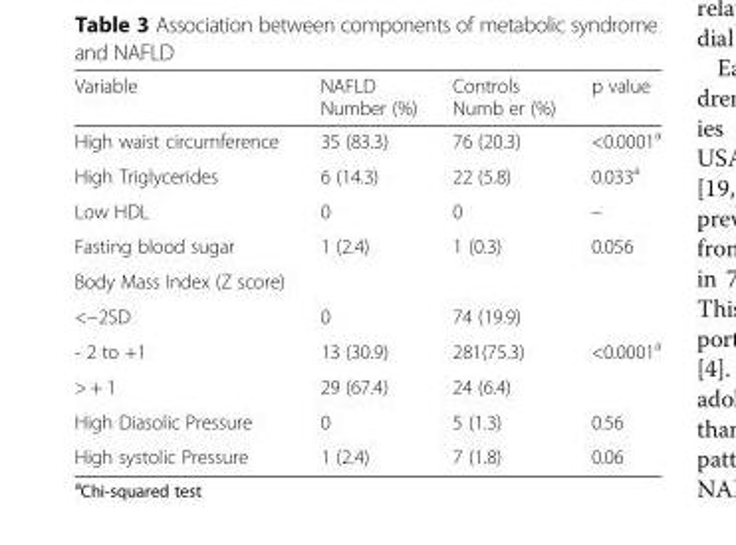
<table><thead><tr><td>Variable</td><td>NAFLD Number (%)</td><td>Controls Numb er (%)</td><td>p value</td></tr></thead><tbody><tr><td>High waist circumference</td><td>35 (83.3)</td><td>76 (20.3)</td><td>&lt;0.0001<sup>a</sup></td></tr><tr><td>High Triglycerides</td><td>6 (14.3)</td><td>22 (5.8)</td><td>0.033<sup>a</sup></td></tr><tr><td>Low HDL</td><td>0</td><td>0</td><td>–</td></tr><tr><td>Fasting blood sugar</td><td>1 (2.4)</td><td>1 (0.3)</td><td>0.056</td></tr><tr><td colspan="4">Body Mass Index (Z score)</td></tr><tr><td>&lt;−2SD</td><td>0</td><td>74 (19.9)</td><td></td></tr><tr><td>- 2 to +1</td><td>13 (30.9)</td><td>281(75.3)</td><td>&lt;0.0001<sup>a</sup></td></tr><tr><td>&gt; + 1</td><td>29 (67.4)</td><td>24 (6.4)</td><td></td></tr><tr><td>High Diasolic Pressure</td><td>0</td><td>5 (1.3)</td><td>0.56</td></tr><tr><td>High systolic Pressure</td><td>1 (2.4)</td><td>7 (1.8)</td><td>0.06</td></tr></tbody></table>